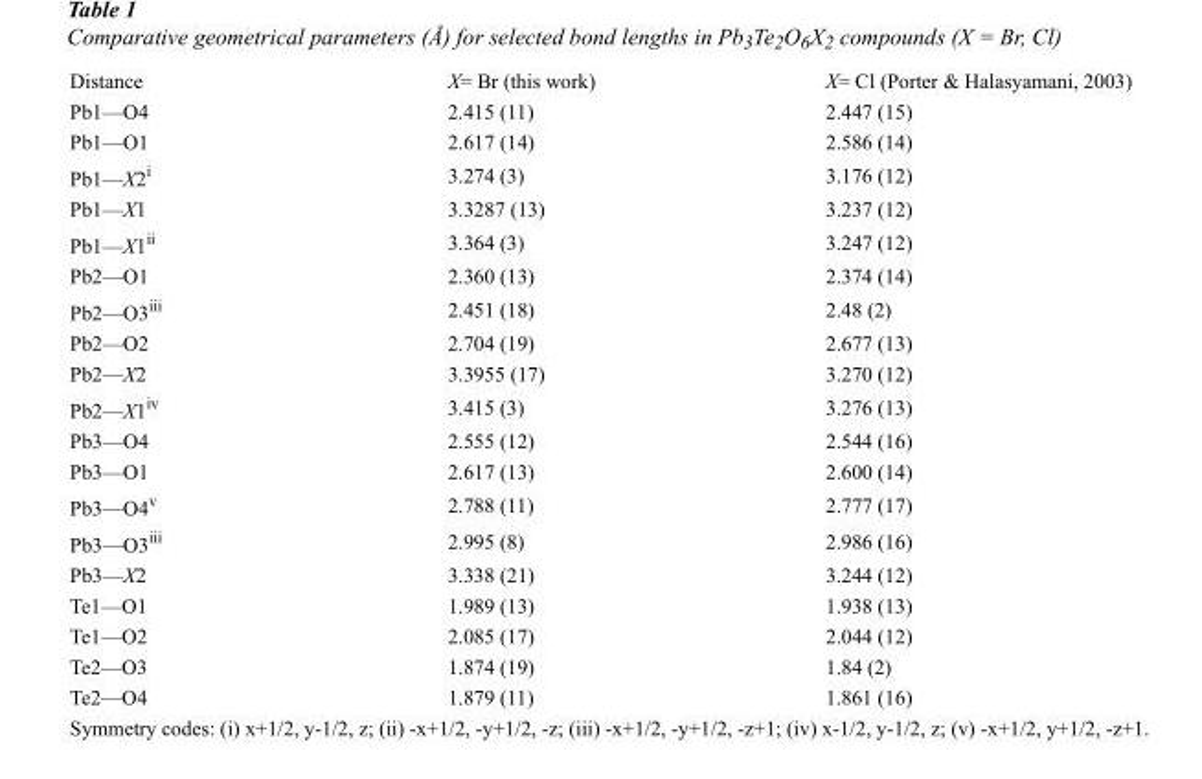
<table><thead><tr><td>Distance</td><td>X= Br (this work)</td><td>X= Cl (Porter &amp; Halasyamani, 2003)</td></tr></thead><tbody><tr><td>Pb1—O4</td><td>2.415 (11)</td><td>2.447 (15)</td></tr><tr><td>Pb1—O1</td><td>2.617 (14)</td><td>2.586 (14)</td></tr><tr><td>Pb1—X2<sup>i</sup></td><td>3.274 (3)</td><td>3.176 (12)</td></tr><tr><td>Pb1—X1</td><td>3.3287 (13)</td><td>3.237 (12)</td></tr><tr><td>Pb1—X1<sup>ii</sup></td><td>3.364 (3)</td><td>3.247 (12)</td></tr><tr><td>Pb2—O1</td><td>2.360 (13)</td><td>2.374 (14)</td></tr><tr><td>Pb2—O3<sup>iii</sup></td><td>2.451 (18)</td><td>2.48 (2)</td></tr><tr><td>Pb2—O2</td><td>2.704 (19)</td><td>2.677 (13)</td></tr><tr><td>Pb2—X2</td><td>3.3955 (17)</td><td>3.270 (12)</td></tr><tr><td>Pb2—X1<sup>iv</sup></td><td>3.415 (3)</td><td>3.276 (13)</td></tr><tr><td>Pb3—O4</td><td>2.555 (12)</td><td>2.544 (16)</td></tr><tr><td>Pb3—O1</td><td>2.617 (13)</td><td>2.600 (14)</td></tr><tr><td>Pb3—O4<sup>v</sup></td><td>2.788 (11)</td><td>2.777 (17)</td></tr><tr><td>Pb3—O3<sup>iii</sup></td><td>2.995 (8)</td><td>2.986 (16)</td></tr><tr><td>Pb3—X2</td><td>3.338 (21)</td><td>3.244 (12)</td></tr><tr><td>Te1—O1</td><td>1.989 (13)</td><td>1.938 (13)</td></tr><tr><td>Te1—O2</td><td>2.085 (17)</td><td>2.044 (12)</td></tr><tr><td>Te2—O3</td><td>1.874 (19)</td><td>1.84 (2)</td></tr><tr><td>Te2—O4</td><td>1.879 (11)</td><td>1.861 (16)</td></tr></tbody></table>